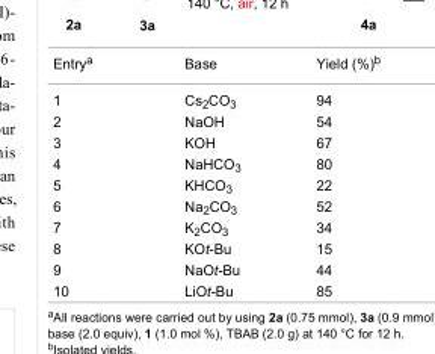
<table><tbody><tr><td>Entry<sup>a</sup></td><td>Base</td><td>Yield (%)<sup>b</sup></td></tr><tr><td>1</td><td>Cs<sub>2</sub>CO<sub>3</sub></td><td>94</td></tr><tr><td>2</td><td>NaOH</td><td>54</td></tr><tr><td>3</td><td>KOH</td><td>67</td></tr><tr><td>4</td><td>NaHCO<sub>3</sub></td><td>80</td></tr><tr><td>5</td><td>KHCO<sub>3</sub></td><td>22</td></tr><tr><td>6</td><td>Na<sub>2</sub>CO<sub>3</sub></td><td>52</td></tr><tr><td>7</td><td>K<sub>2</sub>CO<sub>3</sub></td><td>34</td></tr><tr><td>8</td><td>KOt-Bu</td><td>15</td></tr><tr><td>9</td><td>NaOt-Bu</td><td>44</td></tr><tr><td>10</td><td>LiOt-Bu</td><td>85</td></tr></tbody></table>